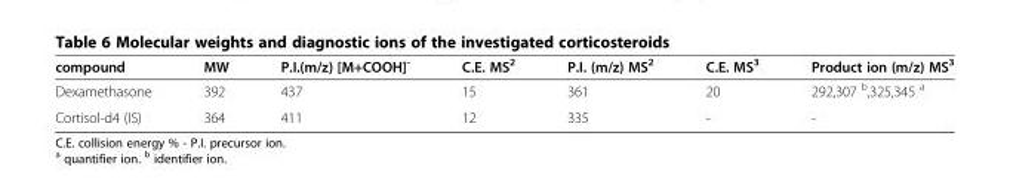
<table><thead><tr><td>compound</td><td>MW</td><td>P.I.(m/z) [M+COOH]<sup>-</sup></td><td>C.E. MS<sup>2</sup></td><td>P.I. (m/z) MS<sup>2</sup></td><td>C.E. MS<sup>3</sup></td><td>Product ion (m/z) MS<sup>3</sup></td></tr></thead><tbody><tr><td>Dexamethasone</td><td>392</td><td>437</td><td>15</td><td>361</td><td>20</td><td>292,307 <sup>b</sup>,325,345 <sup>a</sup></td></tr><tr><td>Cortisol-d4 (IS)</td><td>364</td><td>411</td><td>12</td><td>335</td><td>-</td><td>-</td></tr></tbody></table>